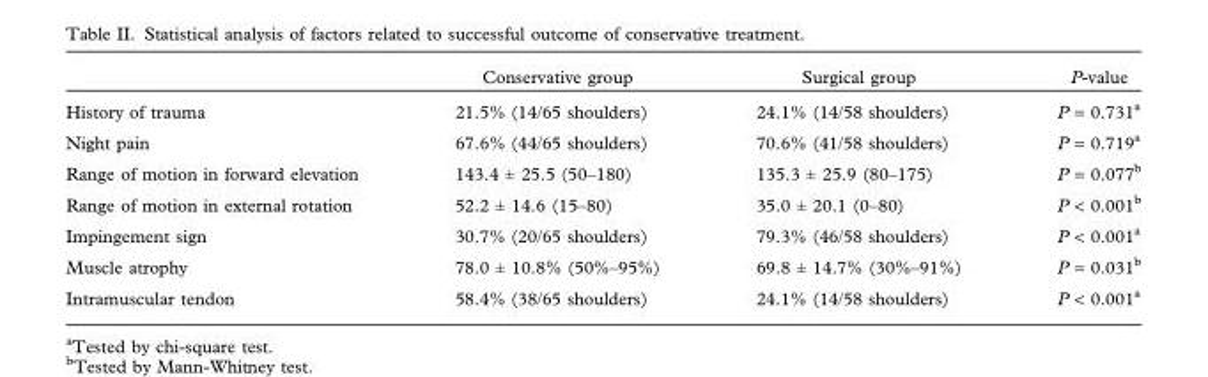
<table><thead><tr><td></td><td>Conservative group</td><td>Surgical group</td><td>P-value</td></tr></thead><tbody><tr><td>History of trauma</td><td>21.5% (14/65 shoulders)</td><td>24.1% (14/58 shoulders)</td><td>P = 0.731<sup>a</sup></td></tr><tr><td>Night pain</td><td>67.6% (44/65 shoulders)</td><td>70.6% (41/58 shoulders)</td><td>P = 0.719<sup>a</sup></td></tr><tr><td>Range of motion in forward elevation</td><td>143.4 ± 25.5 (50–180)</td><td>135.3 ± 25.9 (80–175)</td><td>P = 0.077<sup>b</sup></td></tr><tr><td>Range of motion in external rotation</td><td>52.2 ± 14.6 (15–80)</td><td>35.0 ± 20.1 (0–80)</td><td>P &lt; 0.001<sup>b</sup></td></tr><tr><td>Impingement sign</td><td>30.7% (20/65 shoulders)</td><td>79.3% (46/58 shoulders)</td><td>P &lt; 0.001<sup>a</sup></td></tr><tr><td>Muscle atrophy</td><td>78.0 ± 10.8% (50%–95%)</td><td>69.8 ± 14.7% (30%–91%)</td><td>P = 0.031<sup>b</sup></td></tr><tr><td>Intramuscular tendon</td><td>58.4% (38/65 shoulders)</td><td>24.1% (14/58 shoulders)</td><td>P &lt; 0.001<sup>a</sup></td></tr></tbody></table>